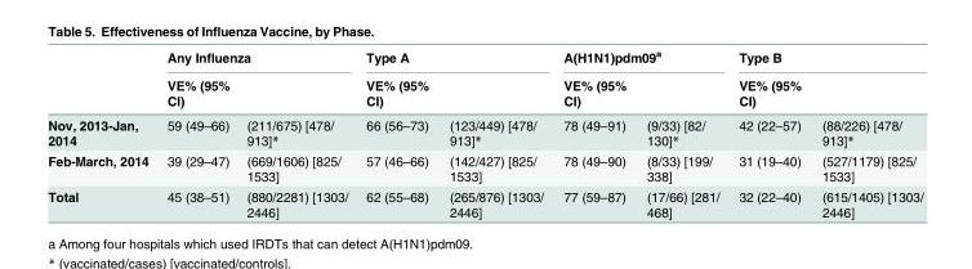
<table><thead><tr><td rowspan="2"></td><td colspan="2">Any Influenza</td><td colspan="2">Type A</td><td colspan="2">A(H1N1)pdm09<sup>a</sup></td><td colspan="2">Type B</td></tr><tr><td>VE% (95% CI)</td><td></td><td>VE% (95% CI)</td><td></td><td>VE% (95% CI)</td><td></td><td>VE% (95% CI)</td><td></td></tr></thead><tbody><tr><td>Nov, 2013-Jan, 2014</td><td>59 (49–66)</td><td>(211/675) [478/ 913]*</td><td>66 (56–73)</td><td>(123/449) [478/ 913]*</td><td>78 (49–91)</td><td>(9/33) [82/ 130]*</td><td>42 (22–57)</td><td>(88/226) [478/ 913]*</td></tr><tr><td>Feb-March, 2014</td><td>39 (29–47)</td><td>(669/1606) [825/ 1533]</td><td>57 (46–66)</td><td>(142/427) [825/ 1533]</td><td>78 (49–90)</td><td>(8/33) [199/ 338]</td><td>31 (19–40)</td><td>(527/1179) [825/ 1533]</td></tr><tr><td>Total</td><td>45 (38–51)</td><td>(880/2281) [1303/ 2446]</td><td>62 (55–68)</td><td>(265/876) [1303/ 2446]</td><td>77 (59–87)</td><td>(17/66) [281/ 468]</td><td>32 (22–40)</td><td>(615/1405) [1303/ 2446]</td></tr></tbody></table>